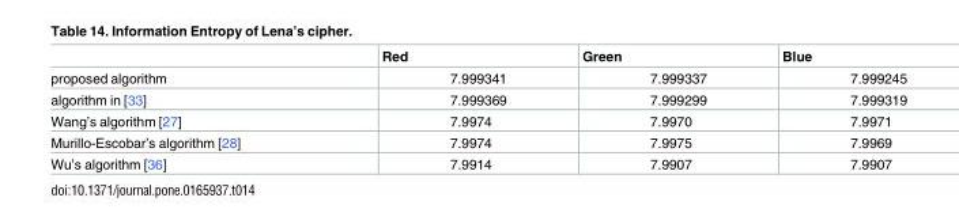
<table><thead><tr><td></td><td>Red</td><td>Green</td><td>Blue</td></tr></thead><tbody><tr><td>proposed algorithm</td><td>7.999341</td><td>7.999337</td><td>7.999245</td></tr><tr><td>algorithm in [33]</td><td>7.999369</td><td>7.999299</td><td>7.999319</td></tr><tr><td>Wang’s algorithm [27]</td><td>7.9974</td><td>7.9970</td><td>7.9971</td></tr><tr><td>Murillo-Escobar’s algorithm [28]</td><td>7.9974</td><td>7.9975</td><td>7.9969</td></tr><tr><td>Wu’s algorithm [36]</td><td>7.9914</td><td>7.9907</td><td>7.9907</td></tr></tbody></table>